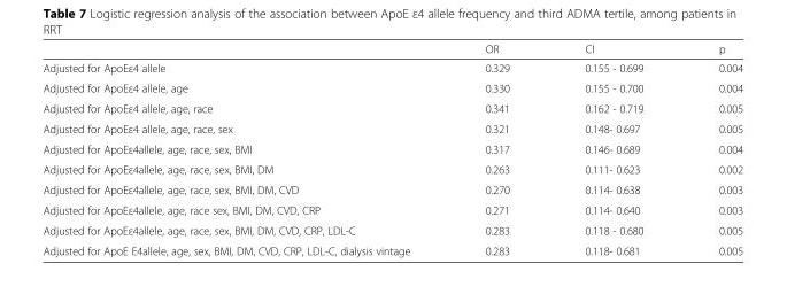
<table><thead><tr><td></td><td>OR</td><td>CI</td><td>p</td></tr></thead><tbody><tr><td>Adjusted for ApoEε4 allele</td><td>0.329</td><td>0.155 - 0.699</td><td>0.004</td></tr><tr><td>Adjusted for ApoEε4 allele, age</td><td>0.330</td><td>0.155 - 0.700</td><td>0.004</td></tr><tr><td>Adjusted for ApoEε4 allele, age, race</td><td>0.341</td><td>0.162 - 0.719</td><td>0.005</td></tr><tr><td>Adjusted for ApoEε4 allele, age, race, sex</td><td>0.321</td><td>0.148- 0.697</td><td>0.005</td></tr><tr><td>Adjusted for ApoEε4allele, age, race, sex, BMI</td><td>0.317</td><td>0.146- 0.689</td><td>0.004</td></tr><tr><td>Adjusted for ApoEε4allele, age, race, sex, BMI, DM</td><td>0.263</td><td>0.111- 0.623</td><td>0.002</td></tr><tr><td>Adjusted for ApoEε4allele, age, race, sex, BMI, DM, CVD</td><td>0.270</td><td>0.114- 0.638</td><td>0.003</td></tr><tr><td>Adjusted for ApoEε4allele, age, race sex, BMI, DM, CVD, CRP</td><td>0.271</td><td>0.114- 0.640</td><td>0.003</td></tr><tr><td>Adjusted for ApoEε4allele, age, race, sex, BMI, DM, CVD, CRP, LDL-C</td><td>0.283</td><td>0.118 - 0.680</td><td>0.005</td></tr><tr><td>Adjusted for ApoE E4allele, age, sex, BMI, DM, CVD, CRP, LDL-C, dialysis vintage</td><td>0.283</td><td>0.118- 0.681</td><td>0.005</td></tr></tbody></table>